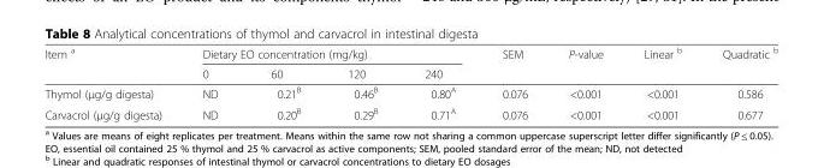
<table><thead><tr><td rowspan="2">Item <sup>a</sup></td><td colspan="4">Dietary EO concentration (mg/kg)</td><td rowspan="2">SEM</td><td rowspan="2">P-value</td><td rowspan="2">Linear <sup>b</sup></td><td rowspan="2">Quadratic <sup>b</sup></td></tr><tr><td>0</td><td>60</td><td>120</td><td>240</td></tr></thead><tbody><tr><td>Thymol (μg/g digesta)</td><td>ND</td><td>0.21<sup>B</sup></td><td>0.46<sup>B</sup></td><td>0.80<sup>A</sup></td><td>0.076</td><td>&lt;0.001</td><td>&lt;0.001</td><td>0.586</td></tr><tr><td>Carvacrol (μg/g digesta)</td><td>ND</td><td>0.20<sup>B</sup></td><td>0.29<sup>B</sup></td><td>0.71<sup>A</sup></td><td>0.076</td><td>&lt;0.001</td><td>&lt;0.001</td><td>0.677</td></tr></tbody></table>